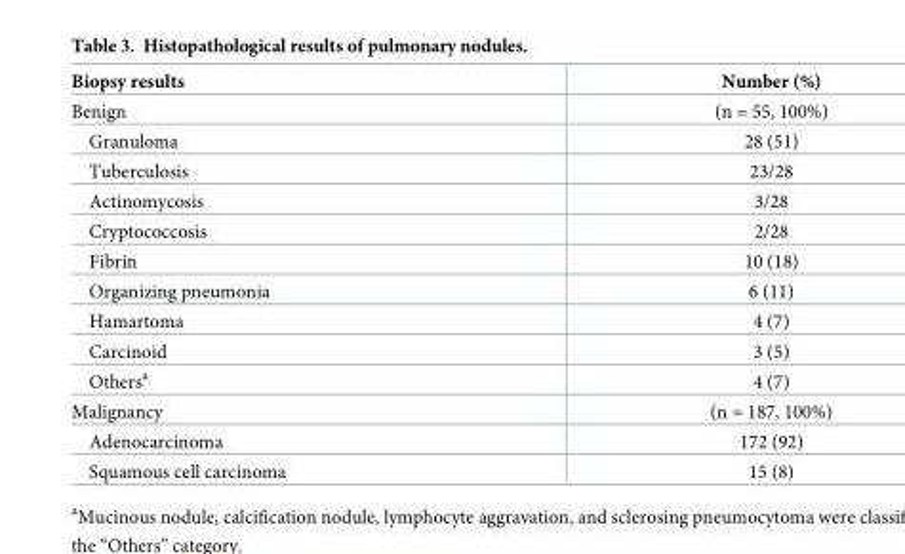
<table><thead><tr><td>Biopsy results</td><td>Number (%)</td></tr></thead><tbody><tr><td>Benign</td><td>(n = 55, 100%)</td></tr><tr><td>Granuloma</td><td>28 (51)</td></tr><tr><td>Tuberculosis</td><td>23/28</td></tr><tr><td>Actinomycosis</td><td>3/28</td></tr><tr><td>Cryptococcosis</td><td>2/28</td></tr><tr><td>Fibrin</td><td>10 (18)</td></tr><tr><td>Organizing pneumonia</td><td>6 (11)</td></tr><tr><td>Hamartoma</td><td>4 (7)</td></tr><tr><td>Carcinoid</td><td>3 (5)</td></tr><tr><td>Others<sup>a</sup></td><td>4 (7)</td></tr><tr><td>Malignancy</td><td>(n = 187, 100%)</td></tr><tr><td>Adenocarcinoma</td><td>172 (92)</td></tr><tr><td>Squamous cell carcinoma</td><td>15 (8)</td></tr></tbody></table>